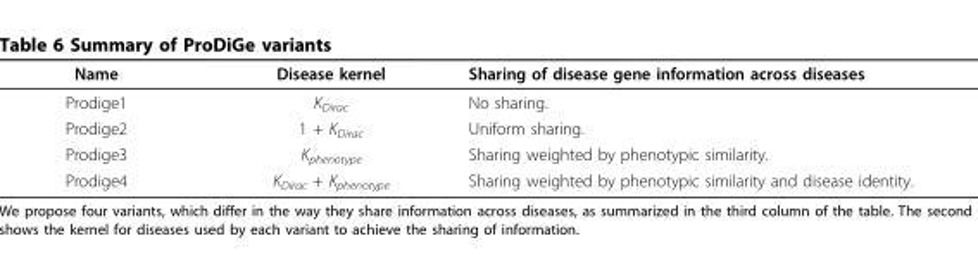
<table><thead><tr><td>Name</td><td>Disease kernel</td><td>Sharing of disease gene information across diseases</td></tr></thead><tbody><tr><td>Prodige1</td><td>K<sub>Dirac</sub></td><td>No sharing.</td></tr><tr><td>Prodige2</td><td>1 + K<sub>Dirac</sub></td><td>Uniform sharing.</td></tr><tr><td>Prodige3</td><td>K<sub>phenotype</sub></td><td>Sharing weighted by phenotypic similarity.</td></tr><tr><td>Prodige4</td><td>K<sub>Dirac</sub> + K<sub>phenotype</sub></td><td>Sharing weighted by phenotypic similarity and disease identity.</td></tr></tbody></table>